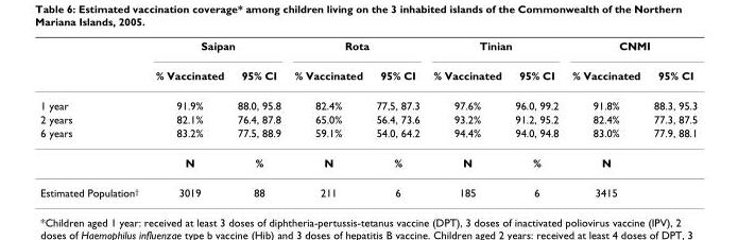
<table><thead><tr><td rowspan="2"></td><td colspan="2">Saipan</td><td colspan="2">Rota</td><td colspan="2">Tinian</td><td colspan="2">CNMI</td></tr><tr><td>% Vaccinated</td><td>95% CI</td><td>% Vaccinated</td><td>95% CI</td><td>% Vaccinated</td><td>95% CI</td><td>% Vaccinated</td><td>95% CI</td></tr></thead><tbody><tr><td>1 year</td><td>91.9%</td><td>88.0, 95.8</td><td>82.4%</td><td>77,5, 87.3</td><td>97.6%</td><td>96.0, 99.2</td><td>91.8%</td><td>88.3, 95.3</td></tr><tr><td>2 years</td><td>82.1%</td><td>76.4, 87.8</td><td>65.0%</td><td>56.4, 73.6</td><td>93.2%</td><td>91.2, 95.2</td><td>82.4%</td><td>77.3, 87.5</td></tr><tr><td rowspan="2">6 years</td><td>83.2%</td><td>77.5, 88.9</td><td>59.1%</td><td>54.0, 64.2</td><td>94.4%</td><td>94.0, 94.8</td><td>83.0%</td><td>77.9, 88.1</td></tr><tr><td>N</td><td>%</td><td>N</td><td>%</td><td>N</td><td>%</td><td>N</td><td></td></tr><tr><td>Estimated Population<sup>†</sup></td><td>3019</td><td>88</td><td>211</td><td>6</td><td>185</td><td>6</td><td>3415</td><td></td></tr></tbody></table>